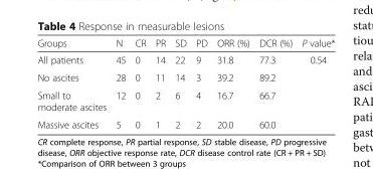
<table><thead><tr><td>Groups</td><td>N</td><td>CR</td><td>PR</td><td>SD</td><td>PD</td><td>ORR (%)</td><td>DCR (%)</td><td>P value*</td></tr></thead><tbody><tr><td>All patients</td><td>45</td><td>0</td><td>14</td><td>22</td><td>9</td><td>31.8</td><td>77.3</td><td>0.54</td></tr><tr><td>No ascites</td><td>28</td><td>0</td><td>11</td><td>14</td><td>3</td><td>39.2</td><td>89.2</td><td></td></tr><tr><td>Small to moderate ascites</td><td>12</td><td>0</td><td>2</td><td>6</td><td>4</td><td>16.7</td><td>66.7</td><td></td></tr><tr><td>Massive ascites</td><td>5</td><td>0</td><td>1</td><td>2</td><td>2</td><td>20.0</td><td>60.0</td><td></td></tr></tbody></table>